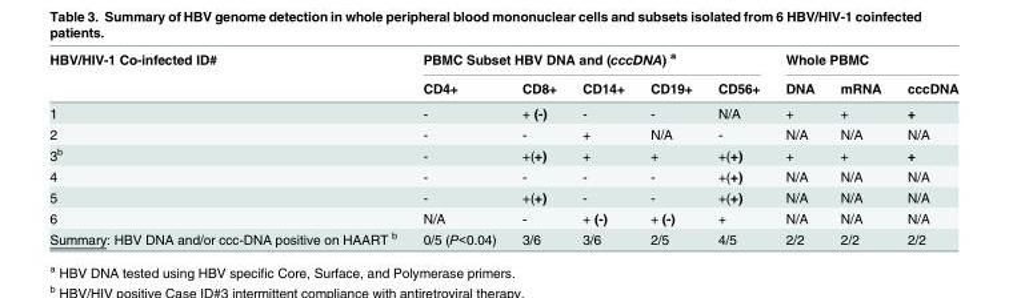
<table><thead><tr><td rowspan="2">HBV/HIV-1 Co-infected ID#</td><td colspan="5">PBMC Subset HBV DNA and (cccDNA) <sup>a</sup></td><td colspan="3">Whole PBMC</td></tr><tr><td>CD4+</td><td>CD8+</td><td>CD14+</td><td>CD19+</td><td>CD56+</td><td>DNA</td><td>mRNA</td><td>cccDNA</td></tr></thead><tbody><tr><td>1</td><td>-</td><td>+ (-)</td><td>-</td><td>-</td><td>N/A</td><td>+</td><td>+</td><td>+</td></tr><tr><td>2</td><td>-</td><td>-</td><td>+</td><td>N/A</td><td>-</td><td>N/A</td><td>N/A</td><td>N/A</td></tr><tr><td>3<sup>b</sup></td><td>-</td><td>+(+)</td><td>+</td><td>+</td><td>+(+)</td><td>+</td><td>+</td><td>+</td></tr><tr><td>4</td><td>-</td><td>-</td><td>-</td><td>-</td><td>+(+)</td><td>N/A</td><td>N/A</td><td>N/A</td></tr><tr><td>5</td><td>-</td><td>+(+)</td><td>-</td><td>-</td><td>+(+)</td><td>N/A</td><td>N/A</td><td>N/A</td></tr><tr><td>6</td><td>N/A</td><td>-</td><td>+ (-)</td><td>+ (-)</td><td>+</td><td>N/A</td><td>N/A</td><td>N/A</td></tr><tr><td>Summary: HBV DNA and/or ccc-DNA positive on HAART <sup>b</sup></td><td>0/5 (P&lt;0.04)</td><td>3/6</td><td>3/6</td><td>2/5</td><td>4/5</td><td>2/2</td><td>2/2</td><td>2/2</td></tr></tbody></table>